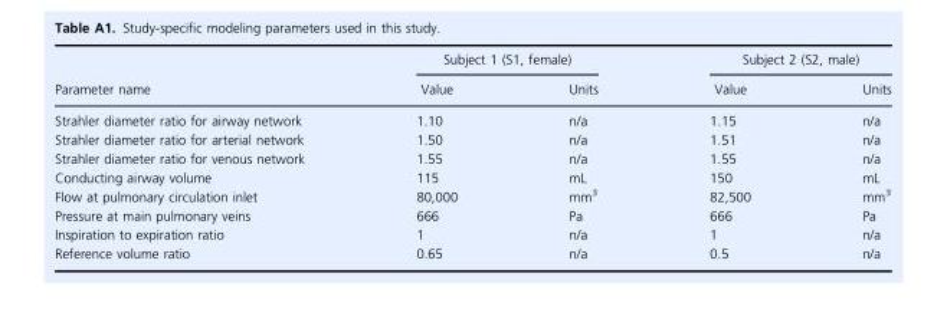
<table><thead><tr><td rowspan="2">Parameter name</td><td colspan="2">Subject 1 (S1, female)</td><td colspan="2">Subject 2 (S2, male)</td></tr><tr><td>Value</td><td>Units</td><td>Value</td><td>Units</td></tr></thead><tbody><tr><td>Strahler diameter ratio for airway network</td><td>1.10</td><td>n/a</td><td>1.15</td><td>n/a</td></tr><tr><td>Strahler diameter ratio for arterial network</td><td>1.50</td><td>n/a</td><td>1.51</td><td>n/a</td></tr><tr><td>Strahler diameter ratio for venous network</td><td>1.55</td><td>n/a</td><td>1.55</td><td>n/a</td></tr><tr><td>Conducting airway volume</td><td>115</td><td>mL</td><td>150</td><td>mL</td></tr><tr><td>Flow at pulmonary circulation inlet</td><td>80,000</td><td>mm<sup>3</sup></td><td>82,500</td><td>mm<sup>3</sup></td></tr><tr><td>Pressure at main pulmonary veins</td><td>666</td><td>Pa</td><td>666</td><td>Pa</td></tr><tr><td>Inspiration to expiration ratio</td><td>1</td><td>n/a</td><td>1</td><td>n/a</td></tr><tr><td>Reference volume ratio</td><td>0.65</td><td>n/a</td><td>0.5</td><td>n/a</td></tr></tbody></table>